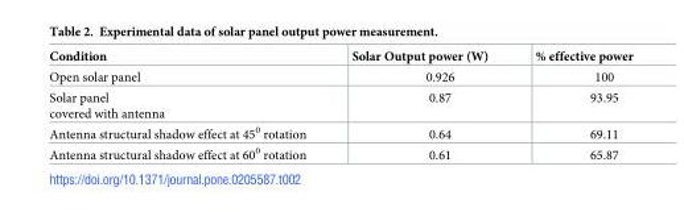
<table><thead><tr><td>Condition</td><td>Solar Output power (W)</td><td>% effective power</td></tr></thead><tbody><tr><td>Open solar panel</td><td>0.926</td><td>100</td></tr><tr><td>Solar panel covered with antenna</td><td>0.87</td><td>93.95</td></tr><tr><td>Antenna structural shadow effect at 45<sup>0</sup> rotation</td><td>0.64</td><td>69.11</td></tr><tr><td>Antenna structural shadow effect at 60<sup>0</sup> rotation</td><td>0.61</td><td>65.87</td></tr></tbody></table>